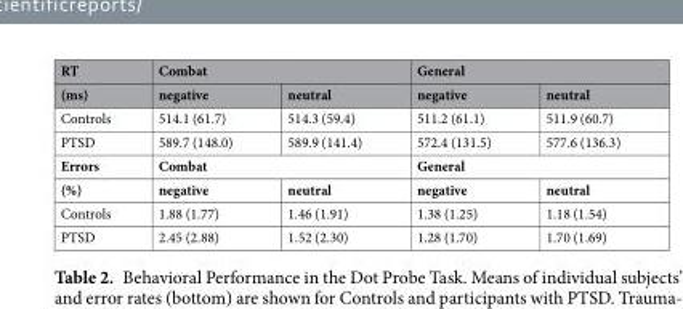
<table><thead><tr><td rowspan="2">RT (ms)</td><td colspan="2">Combat</td><td colspan="2">General</td></tr><tr><td>negative</td><td>neutral</td><td>negative</td><td>neutral</td></tr></thead><tbody><tr><td>Controls</td><td>514.1 (61.7)</td><td>514.3 (59.4)</td><td>511.2 (61.1)</td><td>511.9 (60.7)</td></tr><tr><td>PTSD</td><td>589.7 (148.0)</td><td>589.9 (141.4)</td><td>572.4 (131.5)</td><td>577.6 (136.3)</td></tr><tr><td>Errors</td><td colspan="2">Combat</td><td colspan="2">General</td></tr><tr><td>(%)</td><td>negative</td><td>neutral</td><td>negative</td><td>neutral</td></tr><tr><td>Controls</td><td>1.88 (1.77)</td><td>1.46 (1.91)</td><td>1.38 (1.25)</td><td>1.18 (1.54)</td></tr><tr><td>PTSD</td><td>2.45 (2.88)</td><td>1.52 (2.30)</td><td>1.28 (1.70)</td><td>1.70 (1.69)</td></tr></tbody></table>